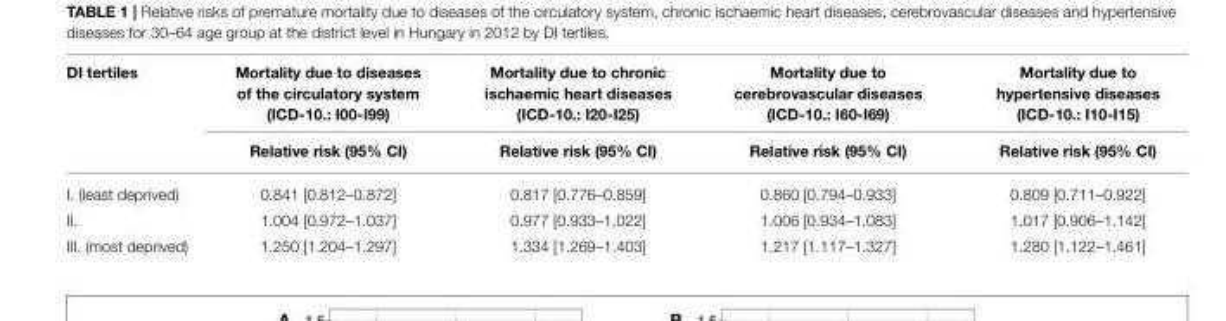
<table><thead><tr><td rowspan="2">DI tertiles</td><td rowspan="2">Mortality due to diseases of the circulatory system (ICD-10.: I00-I99) Relative risk (95% CI)</td><td rowspan="2">Mortality due to chronic ischaemic heart diseases (ICD-10.: I20-I25) Relative risk (95% CI)</td><td rowspan="2">Mortality due to cerebrovascular diseases (ICD-10.: I60-I69) Relative risk (95% CI)</td><td rowspan="2">Mortality due to hypertensive diseases (ICD-10.: I10-I15) Relative risk (95% CI)</td></tr><tr></tr></thead><tbody><tr><td>I. (least deprived)</td><td>0.841 [0.812–0.872]</td><td>0.817 [0.776–0.859]</td><td>0.860 [0.794–0.933]</td><td>0.809 [0.711–0.922]</td></tr><tr><td>II.</td><td>1.004 [0.972–1.037]</td><td>0.977 [0.933–1.022]</td><td>1.006 [0.934–1.083]</td><td>1.017 [0.906–1.142]</td></tr><tr><td>III. (most deprived)</td><td>1.250 [1.204–1.297]</td><td>1.334 [1.269–1.403]</td><td>1.217 [1.117–1.327]</td><td>1.280 [1.122–1.461]</td></tr></tbody></table>